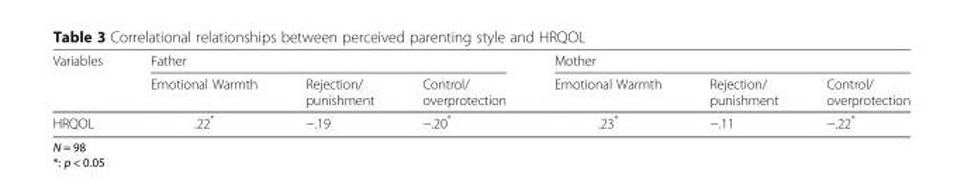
<table><thead><tr><td rowspan="2">Variables</td><td colspan="3">Father</td><td colspan="3">Mother</td></tr><tr><td>Emotional Warmth</td><td>Rejection/ punishment</td><td>Control/ overprotection</td><td>Emotional Warmth</td><td>Rejection/ punishment</td><td>Control/ overprotection</td></tr></thead><tbody><tr><td>HRQOL</td><td>.22*</td><td>−.19</td><td>−.20*</td><td>.23*</td><td>−.11</td><td>−.22*</td></tr></tbody></table>